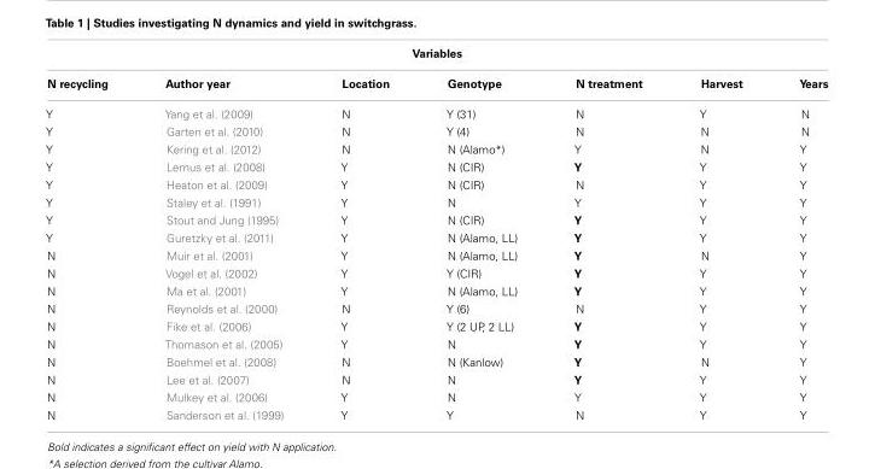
<table><thead><tr><td colspan="7">Variables</td></tr><tr><td>N recycling</td><td>Author year</td><td>Location</td><td>Genotype</td><td>N treatment</td><td>Harvest</td><td>Years</td></tr></thead><tbody><tr><td>Y</td><td>Yang et al. (2009)</td><td>N</td><td>Y (31)</td><td>N</td><td>Y</td><td>N</td></tr><tr><td>Y</td><td>Garten et al. (2010)</td><td>N</td><td>Y (4)</td><td>N</td><td>N</td><td>N</td></tr><tr><td>Y</td><td>Kering et al. (2012)</td><td>N</td><td>N (Alamo*)</td><td>Y</td><td>N</td><td>Y</td></tr><tr><td>Y</td><td>Lemus et al. (2008)</td><td>Y</td><td>N (CIR)</td><td>Y</td><td>Y</td><td>Y</td></tr><tr><td>Y</td><td>Heaton et al. (2009)</td><td>Y</td><td>N (CIR)</td><td>N</td><td>Y</td><td>Y</td></tr><tr><td>Y</td><td>Staley et al. (1991)</td><td>Y</td><td>N</td><td>Y</td><td>Y</td><td>Y</td></tr><tr><td>Y</td><td>Stout and Jung (1995)</td><td>Y</td><td>N (CIR)</td><td>Y</td><td>Y</td><td>Y</td></tr><tr><td>Y</td><td>Guretzky et al. (2011)</td><td>Y</td><td>N (Alamo, LL)</td><td>Y</td><td>Y</td><td>Y</td></tr><tr><td>N</td><td>Muir et al. (2001)</td><td>Y</td><td>N (Alamo, LL)</td><td>Y</td><td>N</td><td>Y</td></tr><tr><td>N</td><td>Vogel et al. (2002)</td><td>Y</td><td>Y (CIR)</td><td>Y</td><td>Y</td><td>Y</td></tr><tr><td>N</td><td>Ma et al. (2001)</td><td>Y</td><td>N (Alamo, LL)</td><td>Y</td><td>Y</td><td>Y</td></tr><tr><td>N</td><td>Reynolds et al. (2000)</td><td>N</td><td>Y (6)</td><td>N</td><td>Y</td><td>Y</td></tr><tr><td>N</td><td>Fike et al. (2006)</td><td>Y</td><td>Y (2 UP, 2 LL)</td><td>Y</td><td>Y</td><td>Y</td></tr><tr><td>N</td><td>Thomason et al. (2005)</td><td>Y</td><td>N</td><td>Y</td><td>Y</td><td>Y</td></tr><tr><td>N</td><td>Boehmel et al. (2008)</td><td>N</td><td>N (Kanlow)</td><td>Y</td><td>N</td><td>Y</td></tr><tr><td>N</td><td>Lee et al. (2007)</td><td>N</td><td>N</td><td>Y</td><td>Y</td><td>Y</td></tr><tr><td>N</td><td>Mulkey et al. (2006)</td><td>Y</td><td>N</td><td>Y</td><td>Y</td><td>Y</td></tr><tr><td>N</td><td>Sanderson et al. (1999)</td><td>Y</td><td>Y</td><td>N</td><td>Y</td><td>Y</td></tr></tbody></table>